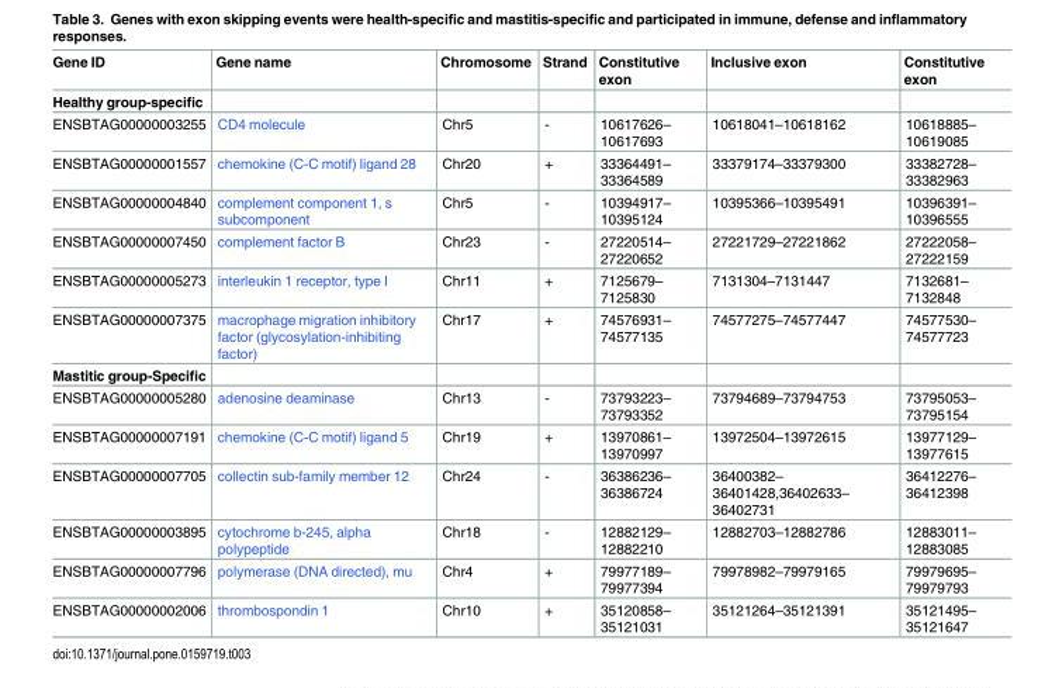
<table><thead><tr><td>Gene ID</td><td>Gene name</td><td>Chromosome</td><td>Strand</td><td>Constitutive exon</td><td>Inclusive exon</td><td>Constitutive exon</td></tr></thead><tbody><tr><td colspan="7">Healthy group-specific</td></tr><tr><td>ENSBTAG00000003255</td><td>CD4 molecule</td><td>Chr5</td><td>-</td><td>10617626– 10617693</td><td>10618041–10618162</td><td>10618885– 10619085</td></tr><tr><td>ENSBTAG00000001557</td><td>chemokine (C-C motif) ligand 28</td><td>Chr20</td><td>+</td><td>33364491– 33364589</td><td>33379174–33379300</td><td>33382728– 33382963</td></tr><tr><td>ENSBTAG00000004840</td><td>complement component 1, s subcomponent</td><td>Chr5</td><td>-</td><td>10394917– 10395124</td><td>10395366–10395491</td><td>10396391– 10396555</td></tr><tr><td>ENSBTAG00000007450</td><td>complement factor B</td><td>Chr23</td><td>-</td><td>27220514– 27220652</td><td>27221729–27221862</td><td>27222058– 27222159</td></tr><tr><td>ENSBTAG00000005273</td><td>interleukin 1 receptor, type I</td><td>Chr11</td><td>+</td><td>7125679– 7125830</td><td>7131304–7131447</td><td>7132681– 7132848</td></tr><tr><td>ENSBTAG00000007375</td><td>macrophage migration inhibitory factor (glycosylation-inhibiting factor)</td><td>Chr17</td><td>+</td><td>74576931– 74577135</td><td>74577275–74577447</td><td>74577530– 74577723</td></tr><tr><td colspan="7">Mastitic group-Specific</td></tr><tr><td>ENSBTAG00000005280</td><td>adenosine deaminase</td><td>Chr13</td><td>-</td><td>73793223– 73793352</td><td>73794689–73794753</td><td>73795053– 73795154</td></tr><tr><td>ENSBTAG00000007191</td><td>chemokine (C-C motif) ligand 5</td><td>Chr19</td><td>+</td><td>13970861– 13970997</td><td>13972504–13972615</td><td>13977129– 13977615</td></tr><tr><td>ENSBTAG00000007705</td><td>collectin sub-family member 12</td><td>Chr24</td><td>-</td><td>36386236– 36386724</td><td>36400382– 36401428,36402633– 36402731</td><td>36412276– 36412398</td></tr><tr><td>ENSBTAG00000003895</td><td>cytochrome b-245, alpha polypeptide</td><td>Chr18</td><td>-</td><td>12882129– 12882210</td><td>12882703–12882786</td><td>12883011– 12883085</td></tr><tr><td>ENSBTAG00000007796</td><td>polymerase (DNA directed), mu</td><td>Chr4</td><td>+</td><td>79977189– 79977394</td><td>79978982–79979165</td><td>79979695– 79979793</td></tr><tr><td>ENSBTAG00000002006</td><td>thrombospondin 1</td><td>Chr10</td><td>+</td><td>35120858– 35121031</td><td>35121264–35121391</td><td>35121495– 35121647</td></tr></tbody></table>